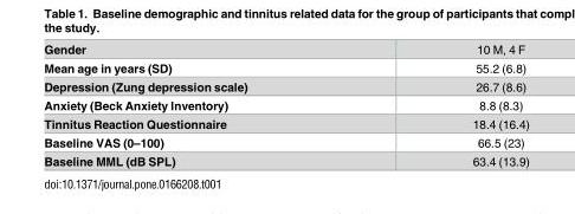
<table><tbody><tr><td>Gender</td><td>10 M, 4 F</td></tr><tr><td>Mean age in years (SD)</td><td>55.2 (6.8)</td></tr><tr><td>Depression (Zung depression scale)</td><td>26.7 (8.6)</td></tr><tr><td>Anxiety (Beck Anxiety Inventory)</td><td>8.8 (8.3)</td></tr><tr><td>Tinnitus Reaction Questionnaire</td><td>18.4 (16.4)</td></tr><tr><td>Baseline VAS (0–100)</td><td>66.5 (23)</td></tr><tr><td>Baseline MML (dB SPL)</td><td>63.4 (13.9)</td></tr></tbody></table>